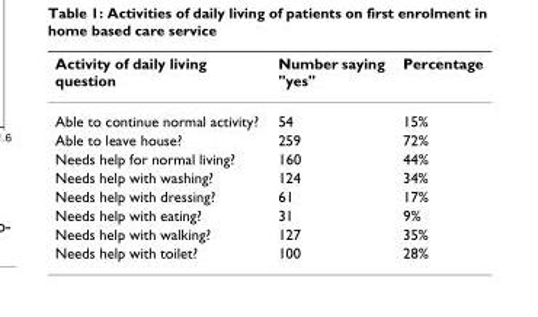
<table><thead><tr><td>Activity of daily living question</td><td>Number saying &quot;yes&quot;</td><td>Percentage</td></tr></thead><tbody><tr><td>Able to continue normal activity?</td><td>54</td><td>15%</td></tr><tr><td>Able to leave house?</td><td>259</td><td>72%</td></tr><tr><td>Needs help for normal living?</td><td>160</td><td>44%</td></tr><tr><td>Needs help with washing?</td><td>124</td><td>34%</td></tr><tr><td>Needs help with dressing?</td><td>61</td><td>17%</td></tr><tr><td>Needs help with eating?</td><td>31</td><td>9%</td></tr><tr><td>Needs help with walking?</td><td>127</td><td>35%</td></tr><tr><td>Needs help with toilet?</td><td>100</td><td>28%</td></tr></tbody></table>